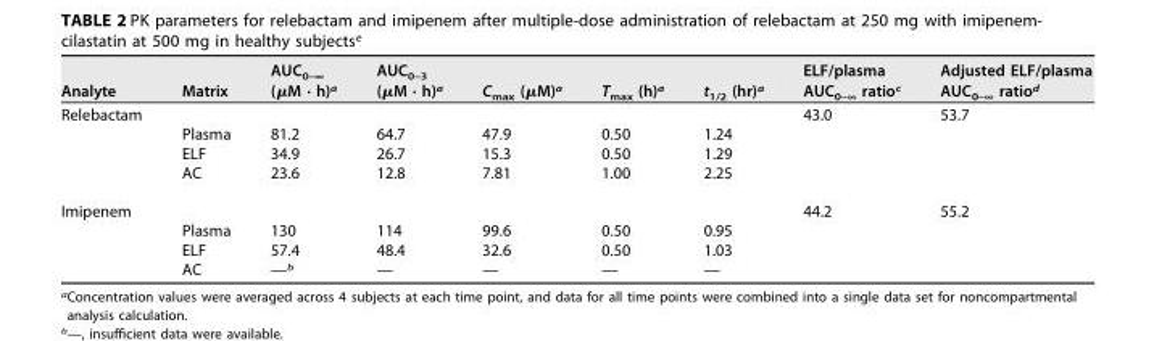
<table><thead><tr><td>Analyte</td><td>Matrix</td><td>AUC<sub>0–∞</sub> (μM · h)<sup>a</sup></td><td>AUC<sub>0–3</sub> (μM · h)<sup>a</sup></td><td>C<sub>max</sub> (μM)<sup>a</sup></td><td>T<sub>max</sub> (h)<sup>a</sup></td><td>t<sub>1/2</sub> (hr)<sup>a</sup></td><td>ELF/plasma AUC<sub>0–∞</sub> ratio<sup>c</sup></td><td>Adjusted ELF/plasma AUC<sub>0–∞</sub> ratio<sup>d</sup></td></tr></thead><tbody><tr><td rowspan="4">Relebactam</td><td></td><td></td><td></td><td></td><td></td><td></td><td>43.0</td><td>53.7</td></tr><tr><td>Plasma</td><td>81.2</td><td>64.7</td><td>47.9</td><td>0.50</td><td>1.24</td><td></td><td></td></tr><tr><td>ELF</td><td>34.9</td><td>26.7</td><td>15.3</td><td>0.50</td><td>1.29</td><td></td><td></td></tr><tr><td>AC</td><td>23.6</td><td>12.8</td><td>7.81</td><td>1.00</td><td>2.25</td><td></td><td></td></tr><tr><td rowspan="4">Imipenem</td><td></td><td></td><td></td><td></td><td></td><td></td><td>44.2</td><td>55.2</td></tr><tr><td>Plasma</td><td>130</td><td>114</td><td>99.6</td><td>0.50</td><td>0.95</td><td></td><td></td></tr><tr><td>ELF</td><td>57.4</td><td>48.4</td><td>32.6</td><td>0.50</td><td>1.03</td><td></td><td></td></tr><tr><td>AC</td><td>—<sup>b</sup></td><td>—</td><td>—</td><td>—</td><td>—</td><td></td><td></td></tr></tbody></table>